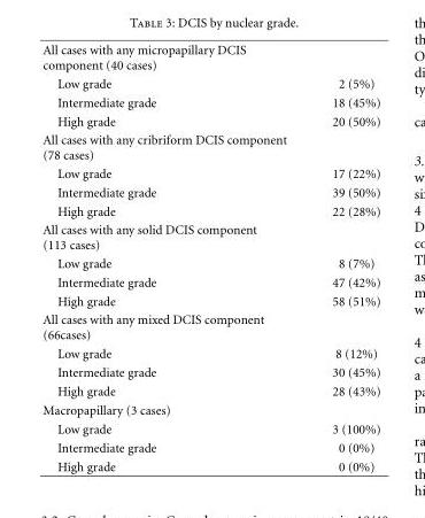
<table><tbody><tr><td colspan="2">All cases with any micropapillary DCIS component (40 cases)</td></tr><tr><td>Low grade</td><td>2 (5%)</td></tr><tr><td>Intermediate grade</td><td>18 (45%)</td></tr><tr><td>High grade</td><td>20 (50%)</td></tr><tr><td colspan="2">All cases with any cribriform DCIS component (78 cases)</td></tr><tr><td>Low grade</td><td>17 (22%)</td></tr><tr><td>Intermediate grade</td><td>39 (50%)</td></tr><tr><td>High grade</td><td>22 (28%)</td></tr><tr><td colspan="2">All cases with any solid DCIS component (113 cases)</td></tr><tr><td>Low grade</td><td>8 (7%)</td></tr><tr><td>Intermediate grade</td><td>47 (42%)</td></tr><tr><td>High grade</td><td>58 (51%)</td></tr><tr><td colspan="2">All cases with any mixed DCIS component (66cases)</td></tr><tr><td>Low grade</td><td>8 (12%)</td></tr><tr><td>Intermediate grade</td><td>30 (45%)</td></tr><tr><td>High grade</td><td>28 (43%)</td></tr><tr><td colspan="2">Macropapillary (3 cases)</td></tr><tr><td>Low grade</td><td>3 (100%)</td></tr><tr><td>Intermediate grade</td><td>0 (0%)</td></tr><tr><td>High grade</td><td>0 (0%)</td></tr></tbody></table>